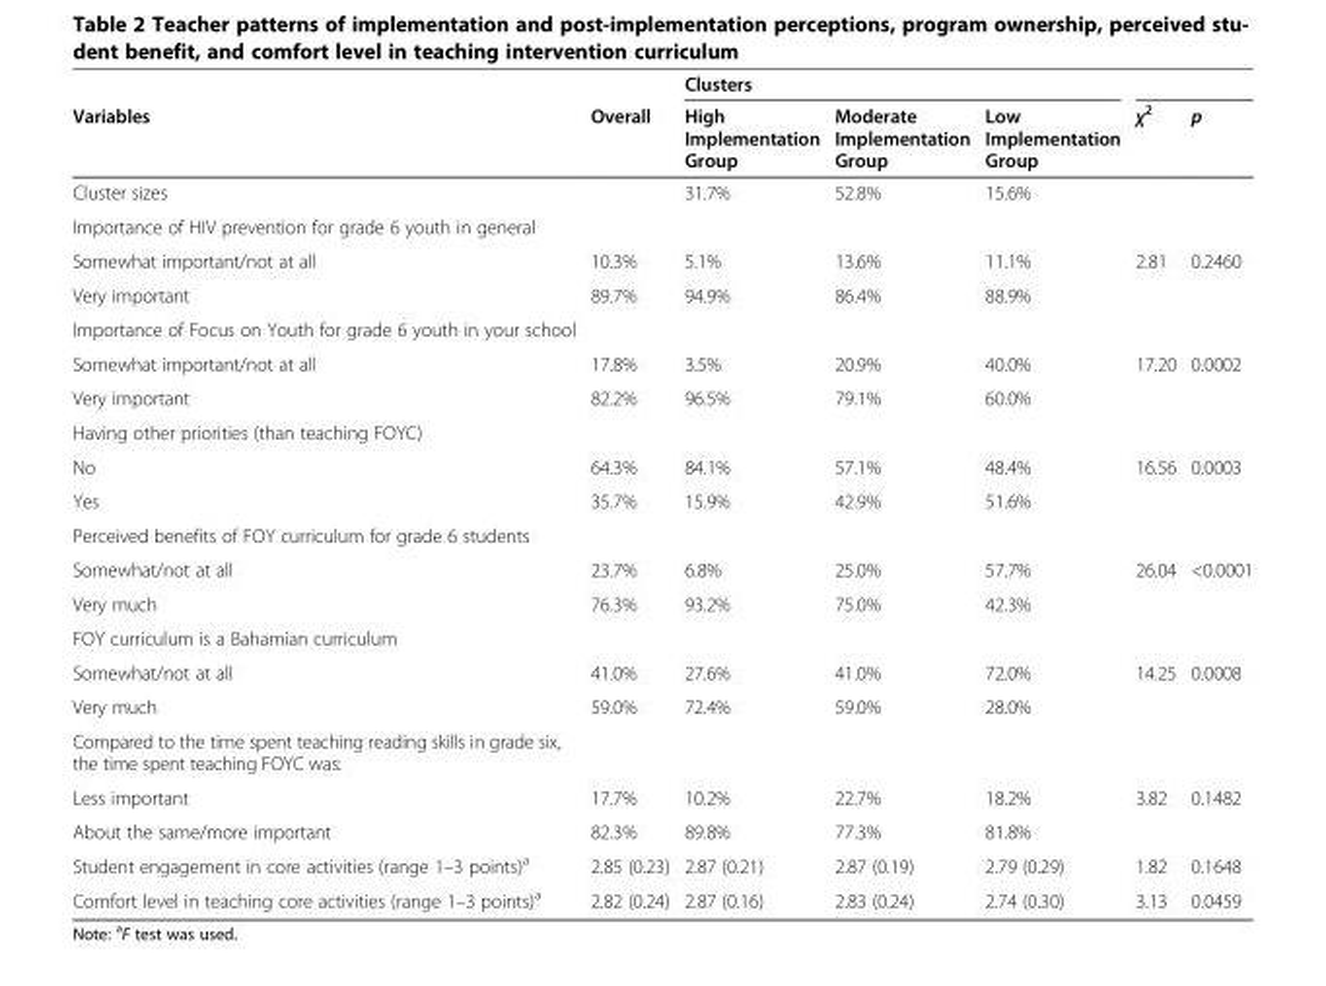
<table><thead><tr><td rowspan="2">Variables</td><td rowspan="2">Overall</td><td colspan="3">Clusters</td><td rowspan="2">χ<sup>2</sup></td><td rowspan="2">p</td></tr><tr><td>High Implementation Group</td><td>Moderate Implementation Group</td><td>Low Implementation Group</td></tr></thead><tbody><tr><td>Cluster sizes</td><td></td><td>31.7%</td><td>52.8%</td><td>15.6%</td><td></td><td></td></tr><tr><td colspan="7">Importance of HIV prevention for grade 6 youth in general</td></tr><tr><td>Somewhat important/not at all</td><td>10.3%</td><td>5.1%</td><td>13.6%</td><td>11.1%</td><td>2.81</td><td>0.2460</td></tr><tr><td>Very important</td><td>89.7%</td><td>94.9%</td><td>86.4%</td><td>88.9%</td><td></td><td></td></tr><tr><td colspan="7">Importance of Focus on Youth for grade 6 youth in your school</td></tr><tr><td>Somewhat important/not at all</td><td>17.8%</td><td>3.5%</td><td>20.9%</td><td>40.0%</td><td>17.20</td><td>0.0002</td></tr><tr><td>Very important</td><td>82.2%</td><td>96.5%</td><td>79.1%</td><td>60.0%</td><td></td><td></td></tr><tr><td colspan="7">Having other priorities (than teaching FOYC)</td></tr><tr><td>No</td><td>64.3%</td><td>84.1%</td><td>57.1%</td><td>48.4%</td><td>16.56</td><td>0.0003</td></tr><tr><td>Yes</td><td>35.7%</td><td>15.9%</td><td>42.9%</td><td>51.6%</td><td></td><td></td></tr><tr><td colspan="7">Perceived benefits of FOY curriculum for grade 6 students</td></tr><tr><td>Somewhat/not at all</td><td>23.7%</td><td>6.8%</td><td>25.0%</td><td>57.7%</td><td>26.04</td><td>&lt;0.0001</td></tr><tr><td>Very much</td><td>76.3%</td><td>93.2%</td><td>75.0%</td><td>42.3%</td><td></td><td></td></tr><tr><td colspan="7">FOY curriculum is a Bahamian curriculum</td></tr><tr><td>Somewhat/not at all</td><td>41.0%</td><td>27.6%</td><td>41.0%</td><td>72.0%</td><td>14.25</td><td>0.0008</td></tr><tr><td>Very much</td><td>59.0%</td><td>72.4%</td><td>59.0%</td><td>28.0%</td><td></td><td></td></tr><tr><td colspan="7">Compared to the time spent teaching reading skills in grade six, the time spent teaching FOYC was:</td></tr><tr><td>Less important</td><td>17.7%</td><td>10.2%</td><td>22.7%</td><td>18.2%</td><td>3.82</td><td>0.1482</td></tr><tr><td>About the same/more important</td><td>82.3%</td><td>89.8%</td><td>77.3%</td><td>81.8%</td><td></td><td></td></tr><tr><td>Student engagement in core activities (range 1–3 points)<sup>a</sup></td><td>2.85 (0.23)</td><td>2.87 (0.21)</td><td>2.87 (0.19)</td><td>2.79 (0.29)</td><td>1.82</td><td>0.1648</td></tr><tr><td>Comfort level in teaching core activities (range 1–3 points)<sup>a</sup></td><td>2.82 (0.24)</td><td>2.87 (0.16)</td><td>2.83 (0.24)</td><td>2.74 (0.30)</td><td>3.13</td><td>0.0459</td></tr></tbody></table>